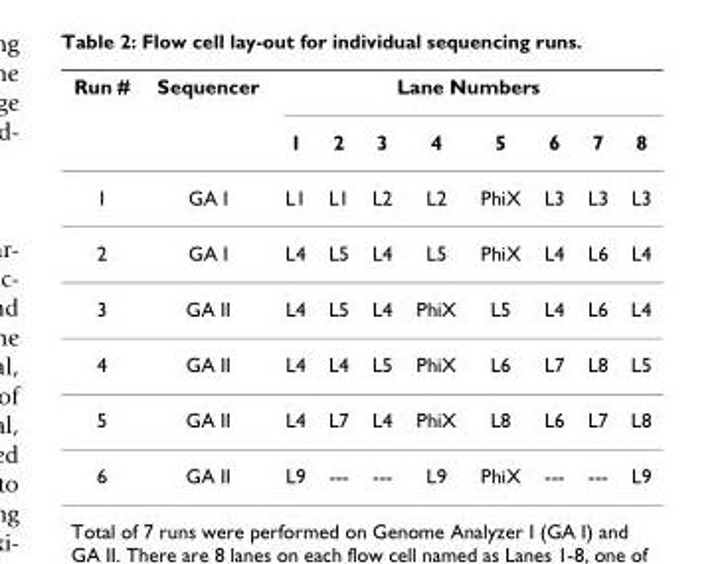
<table><thead><tr><td rowspan="2">Run #</td><td rowspan="2">Sequencer</td><td colspan="8">Lane Numbers</td></tr><tr><td>1</td><td>2</td><td>3</td><td>4</td><td>5</td><td>6</td><td>7</td><td>8</td></tr></thead><tbody><tr><td>1</td><td>GA I</td><td>L1</td><td>L1</td><td>L2</td><td>L2</td><td>PhiX</td><td>L3</td><td>L3</td><td>L3</td></tr><tr><td>2</td><td>GA I</td><td>L4</td><td>L5</td><td>L4</td><td>L5</td><td>PhiX</td><td>L4</td><td>L6</td><td>L4</td></tr><tr><td>3</td><td>GA II</td><td>L4</td><td>L5</td><td>L4</td><td>PhiX</td><td>L5</td><td>L4</td><td>L6</td><td>L4</td></tr><tr><td>4</td><td>GA II</td><td>L4</td><td>L4</td><td>L5</td><td>PhiX</td><td>L6</td><td>L7</td><td>L8</td><td>L5</td></tr><tr><td>5</td><td>GA II</td><td>L4</td><td>L7</td><td>L4</td><td>PhiX</td><td>L8</td><td>L6</td><td>L7</td><td>L8</td></tr><tr><td>6</td><td>GA II</td><td>L9</td><td>---</td><td>---</td><td>L9</td><td>PhiX</td><td>---</td><td>---</td><td>L9</td></tr></tbody></table>